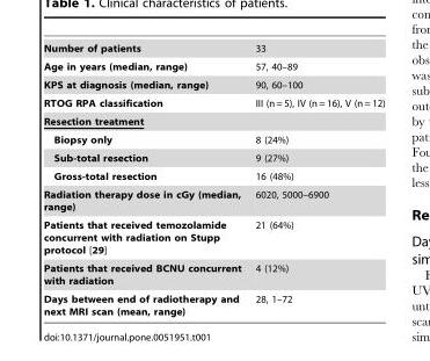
<table><tbody><tr><td>Number of patients</td><td>33</td></tr><tr><td>Age in years (median, range)</td><td>57, 40–89</td></tr><tr><td>KPS at diagnosis (median, range)</td><td>90, 60–100</td></tr><tr><td>RTOG RPA classification</td><td>III (n = 5), IV (n = 16), V (n = 12)</td></tr><tr><td colspan="2">Resection treatment</td></tr><tr><td>Biopsy only</td><td>8 (24%)</td></tr><tr><td>Sub-total resection</td><td>9 (27%)</td></tr><tr><td>Gross-total resection</td><td>16 (48%)</td></tr><tr><td>Radiation therapy dose in cGy (median, range)</td><td>6020, 5000–6900</td></tr><tr><td>Patients that received temozolamide concurrent with radiation on Stupp protocol [29]</td><td>21 (64%)</td></tr><tr><td>Patients that received BCNU concurrent with radiation</td><td>4 (12%)</td></tr><tr><td>Days between end of radiotherapy and next MRI scan (mean, range)</td><td>28, 1–72</td></tr></tbody></table>